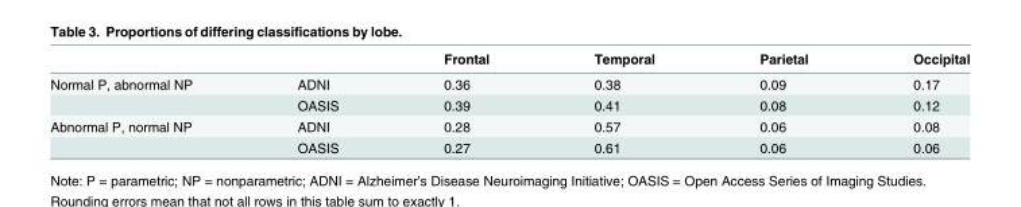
<table><thead><tr><td></td><td></td><td>Frontal</td><td>Temporal</td><td>Parietal</td><td>Occipital</td></tr></thead><tbody><tr><td rowspan="2">Normal P, abnormal NP</td><td>ADNI</td><td>0.36</td><td>0.38</td><td>0.09</td><td>0.17</td></tr><tr><td>OASIS</td><td>0.39</td><td>0.41</td><td>0.08</td><td>0.12</td></tr><tr><td rowspan="2">Abnormal P, normal NP</td><td>ADNI</td><td>0.28</td><td>0.57</td><td>0.06</td><td>0.08</td></tr><tr><td>OASIS</td><td>0.27</td><td>0.61</td><td>0.06</td><td>0.06</td></tr></tbody></table>